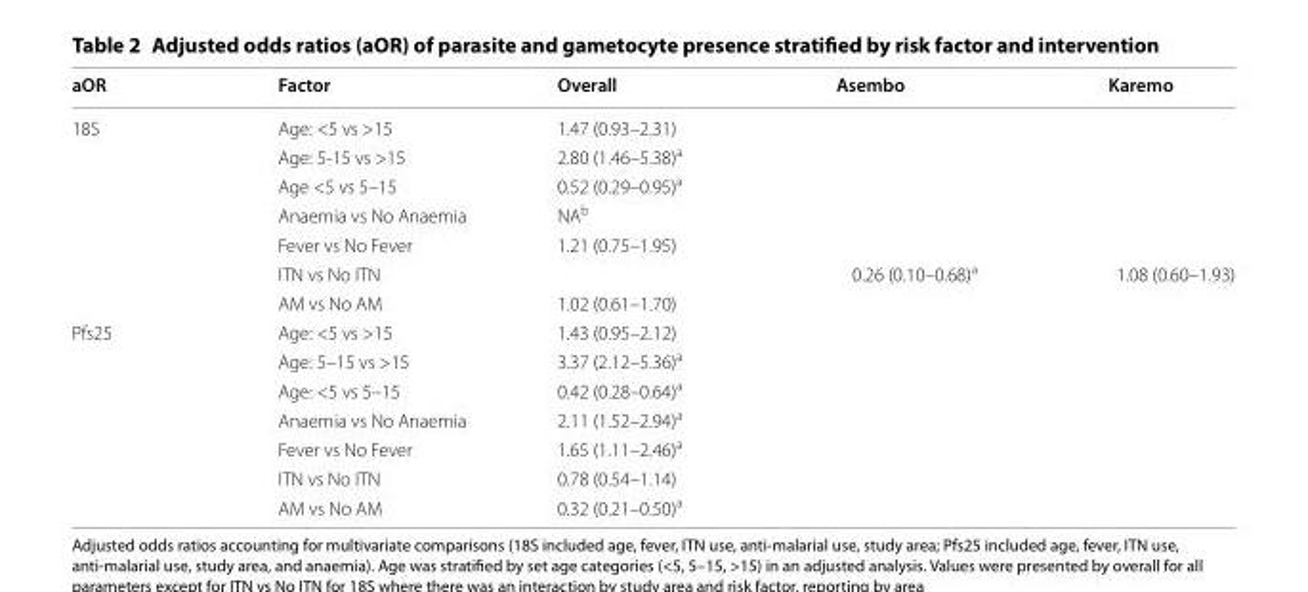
<table><thead><tr><td>aOR</td><td>Factor</td><td>Overall</td><td>Asembo</td><td>Karemo</td></tr></thead><tbody><tr><td rowspan="7">18S</td><td>Age: &lt;5 vs &gt;15</td><td>1.47 (0.93–2.31)</td><td></td><td></td></tr><tr><td>Age: 5-15 vs &gt;15</td><td>2.80 (1.46–5.38)<sup>a</sup></td><td></td><td></td></tr><tr><td>Age &lt;5 vs 5–15</td><td>0.52 (0.29–0.95)<sup>a</sup></td><td></td><td></td></tr><tr><td>Anaemia vs No Anaemia</td><td>NA<sup>b</sup></td><td></td><td></td></tr><tr><td>Fever vs No Fever</td><td>1.21 (0.75–1.95)</td><td></td><td></td></tr><tr><td>ITN vs No ITN</td><td></td><td>0.26 (0.10–0.68)<sup>a</sup></td><td>1.08 (0.60–1.93)</td></tr><tr><td>AM vs No AM</td><td>1.02 (0.61–1.70)</td><td></td><td></td></tr><tr><td rowspan="7">Pfs25</td><td>Age: &lt;5 vs &gt;15</td><td>1.43 (0.95–2.12)</td><td></td><td></td></tr><tr><td>Age: 5–15 vs &gt;15</td><td>3.37 (2.12–5.36)<sup>a</sup></td><td></td><td></td></tr><tr><td>Age: &lt;5 vs 5–15</td><td>0.42 (0.28–0.64)<sup>a</sup></td><td></td><td></td></tr><tr><td>Anaemia vs No Anaemia</td><td>2.11 (1.52–2.94)<sup>a</sup></td><td></td><td></td></tr><tr><td>Fever vs No Fever</td><td>1.65 (1.11–2.46)<sup>a</sup></td><td></td><td></td></tr><tr><td>ITN vs No ITN</td><td>0.78 (0.54–1.14)</td><td></td><td></td></tr><tr><td>AM vs No AM</td><td>0.32 (0.21–0.50)<sup>a</sup></td><td></td><td></td></tr></tbody></table>